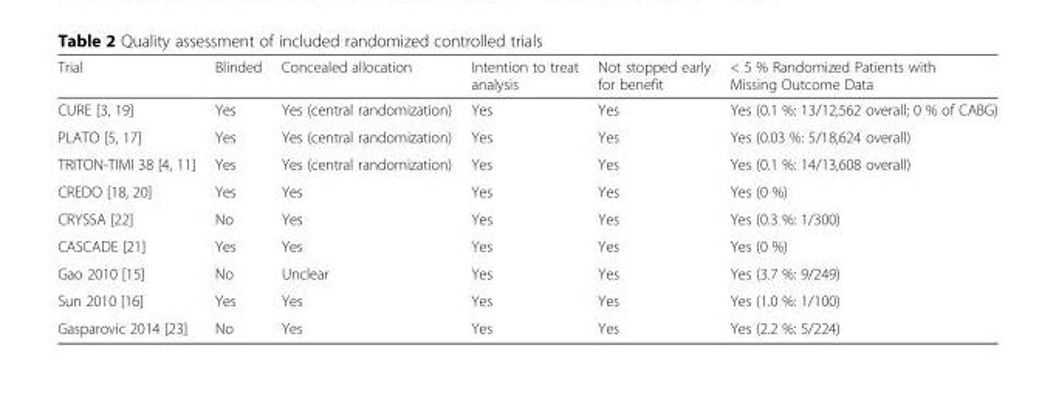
<table><thead><tr><td>Trial</td><td>Blinded</td><td>Concealed allocation</td><td>Intention to treat analysis</td><td>Not stopped early for benefit</td><td>&lt; 5 % Randomized Patients with Missing Outcome Data</td></tr></thead><tbody><tr><td>CURE [3, 19]</td><td>Yes</td><td>Yes (central randomization)</td><td>Yes</td><td>Yes</td><td>Yes (0.1 %: 13/12,562 overall; 0 % of CABG)</td></tr><tr><td>PLATO [5, 17]</td><td>Yes</td><td>Yes (central randomization)</td><td>Yes</td><td>Yes</td><td>Yes (0.03 %: 5/18,624 overall)</td></tr><tr><td>TRITON-TIMI 38 [4, 11]</td><td>Yes</td><td>Yes (central randomization)</td><td>Yes</td><td>Yes</td><td>Yes (0.1 %: 14/13,608 overall)</td></tr><tr><td>CREDO [18, 20]</td><td>Yes</td><td>Yes</td><td>Yes</td><td>Yes</td><td>Yes (0 %)</td></tr><tr><td>CRYSSA [22]</td><td>No</td><td>Yes</td><td>Yes</td><td>Yes</td><td>Yes (0.3 %: 1/300)</td></tr><tr><td>CASCADE [21]</td><td>Yes</td><td>Yes</td><td>Yes</td><td>Yes</td><td>Yes (0 %)</td></tr><tr><td>Gao 2010 [15]</td><td>No</td><td>Unclear</td><td>Yes</td><td>Yes</td><td>Yes (3.7 %: 9/249)</td></tr><tr><td>Sun 2010 [16]</td><td>Yes</td><td>Yes</td><td>Yes</td><td>Yes</td><td>Yes (1.0 %: 1/100)</td></tr><tr><td>Gasparovic 2014 [23]</td><td>No</td><td>Yes</td><td>Yes</td><td>Yes</td><td>Yes (2.2 %: 5/224)</td></tr></tbody></table>